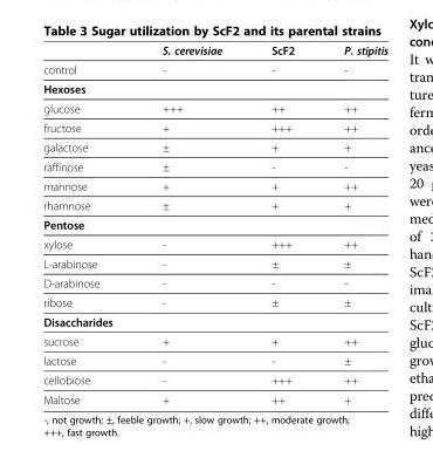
<table><thead><tr><td></td><td>S. cerevisiae</td><td>ScF2</td><td>P. stipitis</td></tr></thead><tbody><tr><td>control</td><td>-</td><td>-</td><td>-</td></tr><tr><td colspan="4">Hexoses</td></tr><tr><td>glucose</td><td>+++</td><td>++</td><td>++</td></tr><tr><td>fructose</td><td>+</td><td>+++</td><td>++</td></tr><tr><td>galactose</td><td>±</td><td>+</td><td>+</td></tr><tr><td>raffinose</td><td>±</td><td>-</td><td>-</td></tr><tr><td>mannose</td><td>+</td><td>+</td><td>++</td></tr><tr><td>rhamnose</td><td>±</td><td>+</td><td>+</td></tr><tr><td colspan="4">Pentose</td></tr><tr><td>xylose</td><td>-</td><td>+++</td><td>++</td></tr><tr><td>L-arabinose</td><td>-</td><td>±</td><td>±</td></tr><tr><td>D-arabinose</td><td>-</td><td>-</td><td>-</td></tr><tr><td>ribose</td><td>-</td><td>±</td><td>±</td></tr><tr><td colspan="4">Disaccharides</td></tr><tr><td>sucrose</td><td>+</td><td>+</td><td>++</td></tr><tr><td>lactose</td><td>-</td><td>-</td><td>±</td></tr><tr><td>cellobiose</td><td>-</td><td>+++</td><td>++</td></tr><tr><td>Maltose</td><td>+</td><td>++</td><td>+</td></tr></tbody></table>